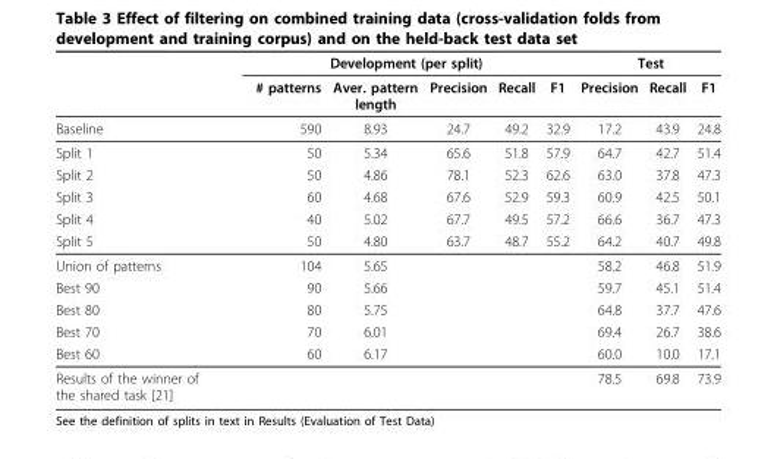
<table><thead><tr><td rowspan="2"></td><td colspan="5">Development (per split)</td><td colspan="3">Test</td></tr><tr><td># patterns</td><td>Aver. pattern length</td><td>Precision</td><td>Recall</td><td>F1</td><td>Precision</td><td>Recall</td><td>F1</td></tr></thead><tbody><tr><td>Baseline</td><td>590</td><td>8.93</td><td>24.7</td><td>49.2</td><td>32.9</td><td>17.2</td><td>43.9</td><td>24.8</td></tr><tr><td>Split 1</td><td>50</td><td>5.34</td><td>65.6</td><td>51.8</td><td>57.9</td><td>64.7</td><td>42.7</td><td>51.4</td></tr><tr><td>Split 2</td><td>50</td><td>4.86</td><td>78.1</td><td>52.3</td><td>62.6</td><td>63.0</td><td>37.8</td><td>47.3</td></tr><tr><td>Split 3</td><td>60</td><td>4.68</td><td>67.6</td><td>52.9</td><td>59.3</td><td>60.9</td><td>42.5</td><td>50.1</td></tr><tr><td>Split 4</td><td>40</td><td>5.02</td><td>67.7</td><td>49.5</td><td>57.2</td><td>66.6</td><td>36.7</td><td>47.3</td></tr><tr><td>Split 5</td><td>50</td><td>4.80</td><td>63.7</td><td>48.7</td><td>55.2</td><td>64.2</td><td>40.7</td><td>49.8</td></tr><tr><td>Union of patterns</td><td>104</td><td>5.65</td><td></td><td></td><td></td><td>58.2</td><td>46.8</td><td>51.9</td></tr><tr><td>Best 90</td><td>90</td><td>5.66</td><td></td><td></td><td></td><td>59.7</td><td>45.1</td><td>51.4</td></tr><tr><td>Best 80</td><td>80</td><td>5.75</td><td></td><td></td><td></td><td>64.8</td><td>37.7</td><td>47.6</td></tr><tr><td>Best 70</td><td>70</td><td>6.01</td><td></td><td></td><td></td><td>69.4</td><td>26.7</td><td>38.6</td></tr><tr><td>Best 60</td><td>60</td><td>6.17</td><td></td><td></td><td></td><td>60.0</td><td>10.0</td><td>17.1</td></tr><tr><td>Results of the winner of the shared task [21]</td><td></td><td></td><td></td><td></td><td></td><td>78.5</td><td>69.8</td><td>73.9</td></tr></tbody></table>